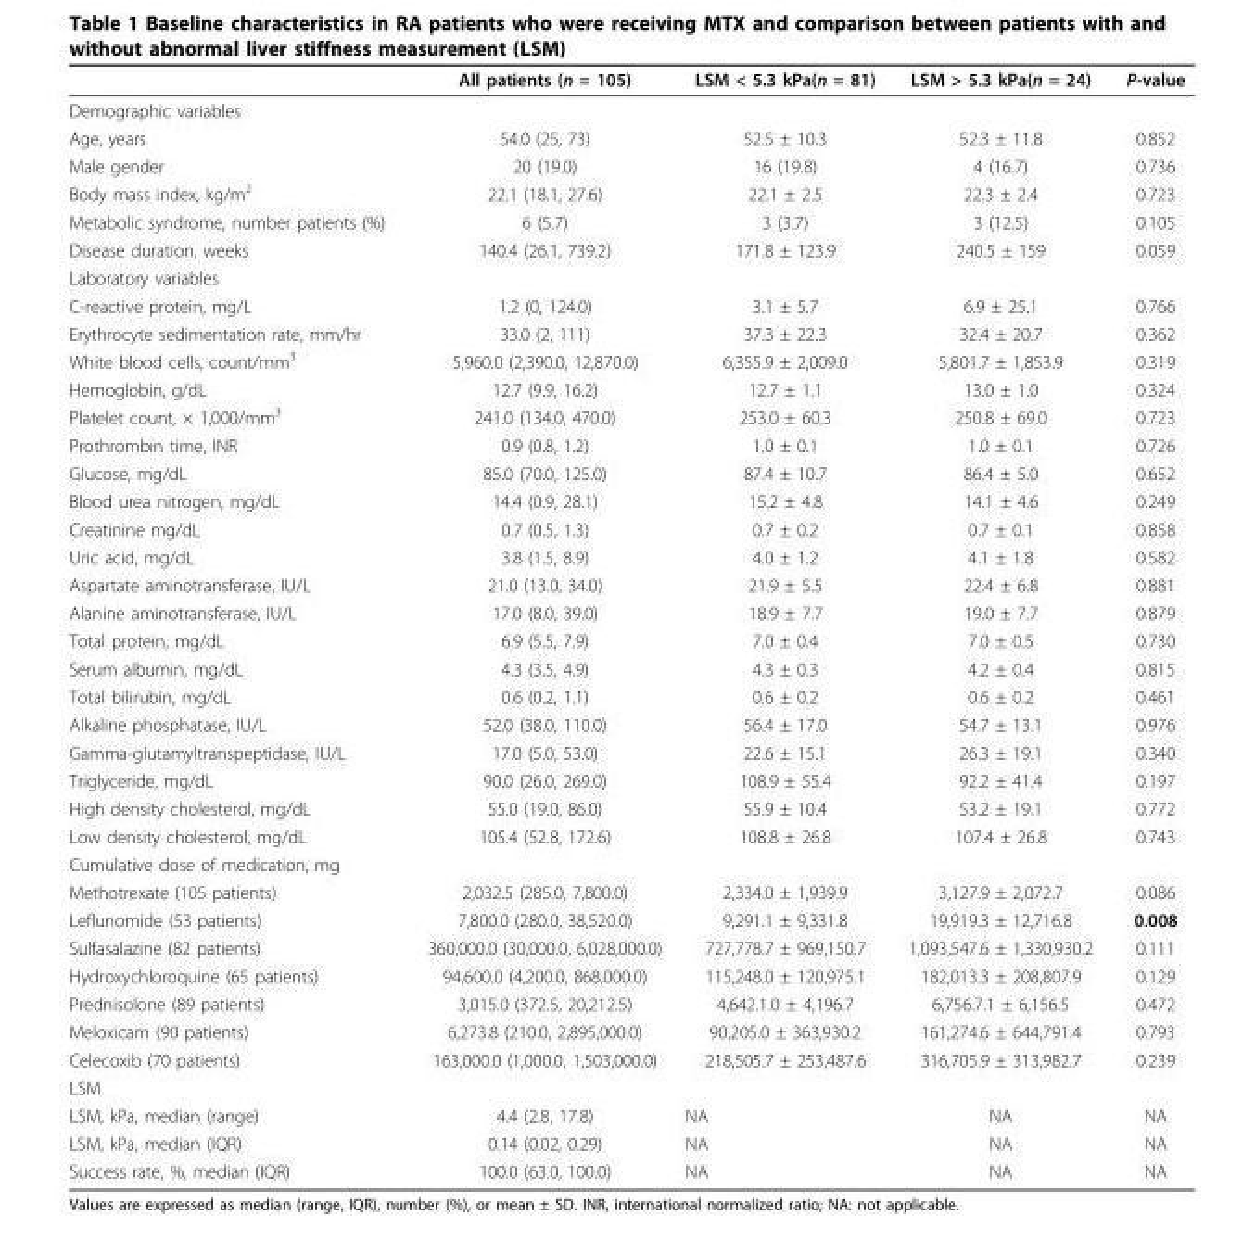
<table><thead><tr><td></td><td>All patients (n = 105)</td><td>LSM &lt; 5.3 kPa(n = 81)</td><td>LSM &gt; 5.3 kPa(n = 24)</td><td>P-value</td></tr></thead><tbody><tr><td colspan="5">Demographic variables</td></tr><tr><td>Age, years</td><td>54.0 (25, 73)</td><td>52.5 ± 10.3</td><td>52.3 ± 11.8</td><td>0.852</td></tr><tr><td>Male gender</td><td>20 (19.0)</td><td>16 (19.8)</td><td>4 (16.7)</td><td>0.736</td></tr><tr><td>Body mass index, kg/m<sup>2</sup></td><td>22.1 (18.1, 27.6)</td><td>22.1 ± 2.5</td><td>22.3 ± 2.4</td><td>0.723</td></tr><tr><td>Metabolic syndrome, number patients (%)</td><td>6 (5.7)</td><td>3 (3.7)</td><td>3 (12.5)</td><td>0.105</td></tr><tr><td>Disease duration, weeks</td><td>140.4 (26.1, 739.2)</td><td>171.8 ± 123.9</td><td>240.5 ± 159</td><td>0.059</td></tr><tr><td colspan="5">Laboratory variables</td></tr><tr><td>C-reactive protein, mg/L</td><td>1.2 (0, 124.0)</td><td>3.1 ± 5.7</td><td>6.9 ± 25.1</td><td>0.766</td></tr><tr><td>Erythrocyte sedimentation rate, mm/hr</td><td>33.0 (2, 111)</td><td>37.3 ± 22.3</td><td>32.4 ± 20.7</td><td>0.362</td></tr><tr><td>White blood cells, count/mm<sup>3</sup></td><td>5,960.0 (2,390.0, 12,870.0)</td><td>6,355.9 ± 2,009.0</td><td>5,801.7 ± 1,853.9</td><td>0.319</td></tr><tr><td>Hemoglobin, g/dL</td><td>12.7 (9.9, 16.2)</td><td>12.7 ± 1.1</td><td>13.0 ± 1.0</td><td>0.324</td></tr><tr><td>Platelet count, × 1,000/mm<sup>3</sup></td><td>241.0 (134.0, 470.0)</td><td>253.0 ± 60.3</td><td>250.8 ± 69.0</td><td>0.723</td></tr><tr><td>Prothrombin time, INR</td><td>0.9 (0.8, 1.2)</td><td>1.0 ± 0.1</td><td>1.0 ± 0.1</td><td>0.726</td></tr><tr><td>Glucose, mg/dL</td><td>85.0 (70.0, 125.0)</td><td>87.4 ± 10.7</td><td>86.4 ± 5.0</td><td>0.652</td></tr><tr><td>Blood urea nitrogen, mg/dL</td><td>14.4 (0.9, 28.1)</td><td>15.2 ± 4.8</td><td>14.1 ± 4.6</td><td>0.249</td></tr><tr><td>Creatinine mg/dL</td><td>0.7 (0.5, 1.3)</td><td>0.7 ± 0.2</td><td>0.7 ± 0.1</td><td>0.858</td></tr><tr><td>Uric acid, mg/dL</td><td>3.8 (1.5, 8.9)</td><td>4.0 ± 1.2</td><td>4.1 ± 1.8</td><td>0.582</td></tr><tr><td>Aspartate aminotransferase, IU/L</td><td>21.0 (13.0, 34.0)</td><td>21.9 ± 5.5</td><td>22.4 ± 6.8</td><td>0.881</td></tr><tr><td>Alanine aminotransferase, IU/L</td><td>17.0 (8.0, 39.0)</td><td>18.9 ± 7.7</td><td>19.0 ± 7.7</td><td>0.879</td></tr><tr><td>Total protein, mg/dL</td><td>6.9 (5.5, 7.9)</td><td>7.0 ± 0.4</td><td>7.0 ± 0.5</td><td>0.730</td></tr><tr><td>Serum albumin, mg/dL</td><td>4.3 (3.5, 4.9)</td><td>4.3 ± 0.3</td><td>4.2 ± 0.4</td><td>0.815</td></tr><tr><td>Total bilirubin, mg/dL</td><td>0.6 (0.2, 1.1)</td><td>0.6 ± 0.2</td><td>0.6 ± 0.2</td><td>0.461</td></tr><tr><td>Alkaline phosphatase, IU/L</td><td>52.0 (38.0, 110.0)</td><td>56.4 ± 17.0</td><td>54.7 ± 13.1</td><td>0.976</td></tr><tr><td>Gamma-glutamyltranspeptidase, IU/L</td><td>17.0 (5.0, 53.0)</td><td>22.6 ± 15.1</td><td>26.3 ± 19.1</td><td>0.340</td></tr><tr><td>Triglyceride, mg/dL</td><td>90.0 (26.0, 269.0)</td><td>108.9 ± 55.4</td><td>92.2 ± 41.4</td><td>0.197</td></tr><tr><td>High density cholesterol, mg/dL</td><td>55.0 (19.0, 86.0)</td><td>55.9 ± 10.4</td><td>53.2 ± 19.1</td><td>0.772</td></tr><tr><td>Low density cholesterol, mg/dL</td><td>105.4 (52.8, 172.6)</td><td>108.8 ± 26.8</td><td>107.4 ± 26.8</td><td>0.743</td></tr><tr><td colspan="5">Cumulative dose of medication, mg</td></tr><tr><td>Methotrexate (105 patients)</td><td>2,032.5 (285.0, 7,800.0)</td><td>2,334.0 ± 1,939.9</td><td>3,127.9 ± 2,072.7</td><td>0.086</td></tr><tr><td>Leflunomide (53 patients)</td><td>7,800.0 (280.0, 38,520.0)</td><td>9,291.1 ± 9,331.8</td><td>19,919.3 ± 12,716.8</td><td>0.008</td></tr><tr><td>Sulfasalazine (82 patients)</td><td>360,000.0 (30,000.0, 6,028,000.0)</td><td>727,778.7 ± 969,150.7</td><td>1,093,547.6 ± 1,330,930.2</td><td>0.111</td></tr><tr><td>Hydroxychloroquine (65 patients)</td><td>94,600.0 (4,200.0, 868,000.0)</td><td>115,248.0 ± 120,975.1</td><td>182,013.3 ± 208,807.9</td><td>0.129</td></tr><tr><td>Prednisolone (89 patients)</td><td>3,015.0 (372.5, 20,212.5)</td><td>4,642.1.0 ± 4,196.7</td><td>6,756.7.1 ± 6,156.5</td><td>0.472</td></tr><tr><td>Meloxicam (90 patients)</td><td>6,273.8 (210.0, 2,895,000.0)</td><td>90,205.0 ± 363,930.2</td><td>161,274.6 ± 644,791.4</td><td>0.793</td></tr><tr><td>Celecoxib (70 patients)</td><td>163,000.0 (1,000.0, 1,503,000.0)</td><td>218,505.7 ± 253,487.6</td><td>316,705.9 ± 313,982.7</td><td>0.239</td></tr><tr><td colspan="5">LSM</td></tr><tr><td>LSM, kPa, median (range)</td><td>4.4 (2.8, 17.8)</td><td>NA</td><td>NA</td><td>NA</td></tr><tr><td>LSM, kPa, median (IQR)</td><td>0.14 (0.02, 0.29)</td><td>NA</td><td>NA</td><td>NA</td></tr><tr><td>Success rate, %, median (IQR)</td><td>100.0 (63.0, 100.0)</td><td>NA</td><td>NA</td><td>NA</td></tr></tbody></table>